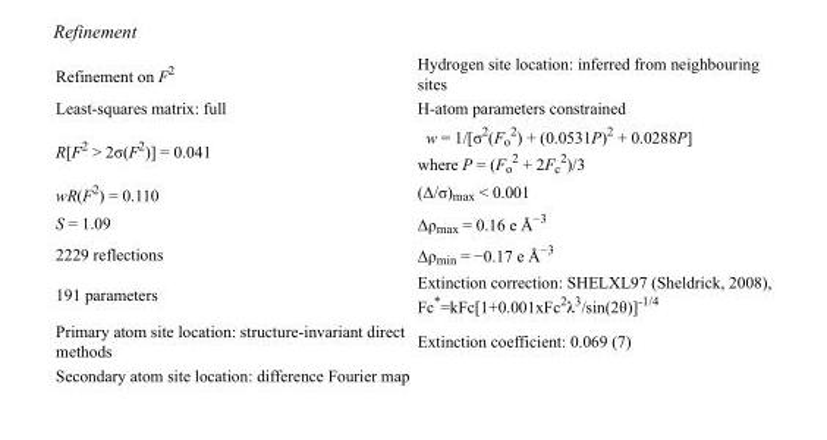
<table><tbody><tr><td>Refinement on F<sup>2</sup></td><td>Hydrogen site location: inferred from neighbouring sites</td></tr><tr><td>Least-squares matrix: full</td><td>H-atom parameters constrained</td></tr><tr><td>R[F<sup>2</sup> &gt; 2σ(F<sup>2</sup>)] = 0.041</td><td>w = 1/[σ<sup>2</sup>(F<sub>o</sub> <sup>2</sup>) + (0.0531P)<sup>2</sup> + 0.0288P] where P = (F<sub>o</sub> <sup>2</sup> + 2F<sub>c</sub> <sup>2</sup>)/3</td></tr><tr><td>wR(F<sup>2</sup>) = 0.110</td><td>(Δ/σ)<sub>max</sub> &lt; 0.001</td></tr><tr><td>S = 1.09</td><td>Δρ<sub>max</sub> = 0.16 e Å<sup>−3</sup></td></tr><tr><td>2229 reflections</td><td>Δρ<sub>min</sub> = −0.17 e Å<sup>−3</sup></td></tr><tr><td>191 parameters</td><td>Extinction correction: SHELXL97 (Sheldrick, 2008), Fc*=kFc[1+0.001xFc<sup>2</sup>λ<sup>3</sup>/sin(2θ)]<sup>-1/4</sup></td></tr><tr><td>Primary atom site location: structure-invariant direct methods</td><td>Extinction coefficient: 0.069 (7)</td></tr><tr><td>Secondary atom site location: difference Fourier map</td><td></td></tr></tbody></table>